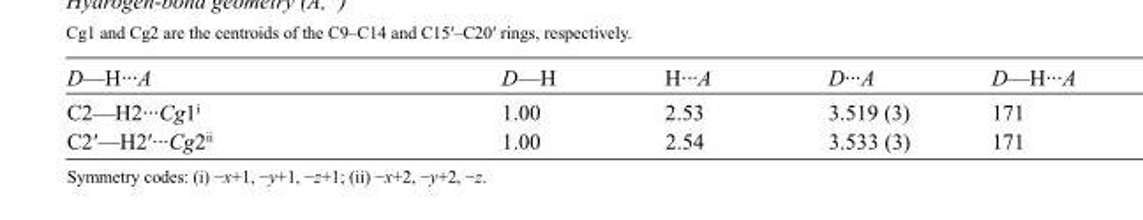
<table><tbody><tr><td>D—H···A</td><td>D—H</td><td>H···A</td><td>D···A</td><td>D—H···A</td></tr><tr><td>C2—H2···Cg1<sup>i</sup></td><td>1.00</td><td>2.53</td><td>3.519 (3)</td><td>171</td></tr><tr><td>C2′—H2′···Cg2<sup>ii</sup></td><td>1.00</td><td>2.54</td><td>3.533 (3)</td><td>171</td></tr></tbody></table>